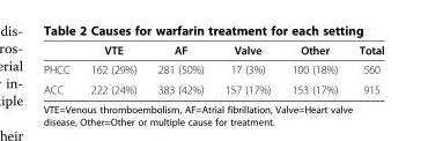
<table><thead><tr><td></td><td>VTE</td><td>AF</td><td>Valve</td><td>Other</td><td>Total</td></tr></thead><tbody><tr><td>PHCC</td><td>162 (29%)</td><td>281 (50%)</td><td>17 (3%)</td><td>100 (18%)</td><td>560</td></tr><tr><td>ACC</td><td>222 (24%)</td><td>383 (42%)</td><td>157 (17%)</td><td>153 (17%)</td><td>915</td></tr></tbody></table>